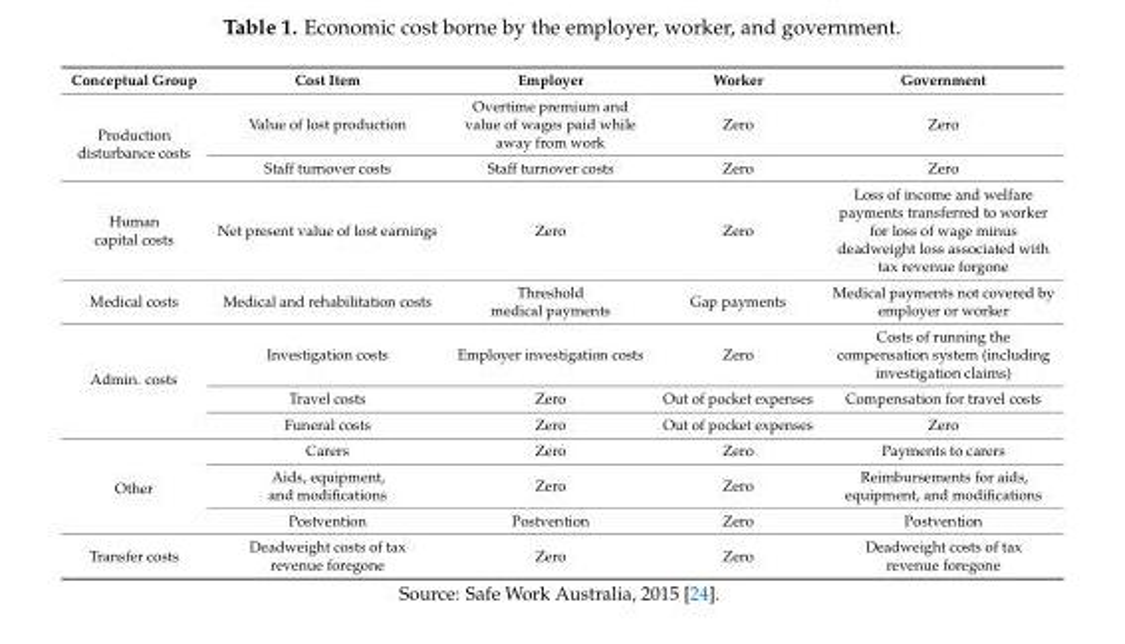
<table><thead><tr><td>Conceptual Group</td><td>Cost Item</td><td>Employer</td><td>Worker</td><td>Government</td></tr></thead><tbody><tr><td rowspan="2">Production disturbance costs</td><td>Value of lost production</td><td>Overtime premium and value of wages paid while away from work</td><td>Zero</td><td>Zero</td></tr><tr><td>Staff turnover costs</td><td>Staff turnover costs</td><td>Zero</td><td>Zero</td></tr><tr><td>Human capital costs</td><td>Net present value of lost earnings</td><td>Zero</td><td>Zero</td><td>Loss of income and welfare payments transferred to worker for loss of wage minus deadweight loss associated with tax revenue forgone</td></tr><tr><td>Medical costs</td><td>Medical and rehabilitation costs</td><td>Threshold medical payments</td><td>Gap payments</td><td>Medical payments not covered by employer or worker</td></tr><tr><td rowspan="3">Admin. costs</td><td>Investigation costs</td><td>Employer investigation costs</td><td>Zero</td><td>Costs of running the compensation system (including investigation claims)</td></tr><tr><td>Travel costs</td><td>Zero</td><td>Out of pocket expenses</td><td>Compensation for travel costs</td></tr><tr><td>Funeral costs</td><td>Zero</td><td>Out of pocket expenses</td><td>Zero</td></tr><tr><td rowspan="3">Other</td><td>Carers</td><td>Zero</td><td>Zero</td><td>Payments to carers</td></tr><tr><td>Aids, equipment, and modifications</td><td>Zero</td><td>Zero</td><td>Reimbursements for aids, equipment, and modifications</td></tr><tr><td>Postvention</td><td>Postvention</td><td>Zero</td><td>Postvention</td></tr><tr><td>Transfer costs</td><td>Deadweight costs of tax revenue foregone</td><td>Zero</td><td>Zero</td><td>Deadweight costs of tax revenue foregone</td></tr></tbody></table>